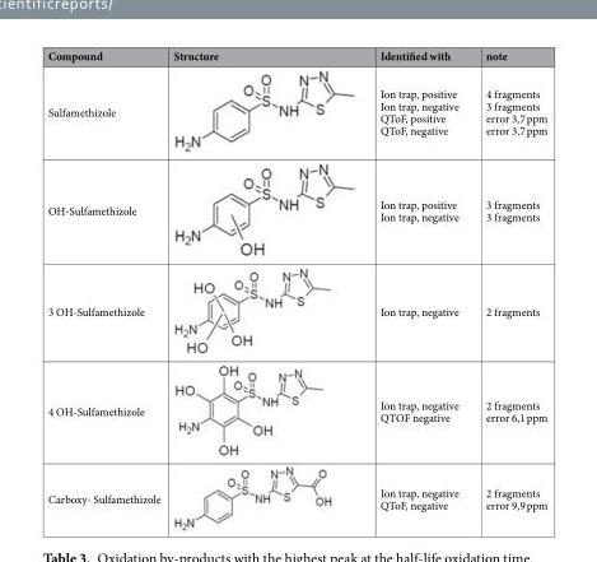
<table><thead><tr><td>Compound</td><td>Structure</td><td>Identified with</td><td>note</td></tr></thead><tbody><tr><td>Sulfamethizole</td><td></td><td>Ion trap, positive Ion trap, negative QToF, positive QToF, negative</td><td>4 fragments 3 fragments error 3,7 ppm error 3,7 ppm</td></tr><tr><td>OH-Sulfamethizole</td><td></td><td>Ion trap, positive Ion trap, negative</td><td>3 fragments 3 fragments</td></tr><tr><td>3 OH-Sulfamethizole</td><td></td><td>Ion trap, negative</td><td>2 fragments</td></tr><tr><td>4 OH-Sulfamethizole</td><td></td><td>Ion trap, negative QTOF negative</td><td>2 fragments error 6,1 ppm</td></tr><tr><td>Carboxy- Sulfamethizole</td><td></td><td>Ion trap, negative QToF, negative</td><td>2 fragments error 9,9 ppm</td></tr></tbody></table>